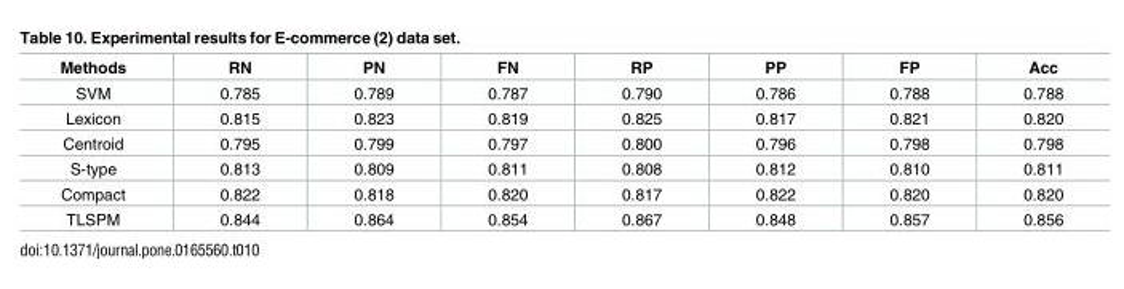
<table><thead><tr><td>Methods</td><td>RN</td><td>PN</td><td>FN</td><td>RP</td><td>PP</td><td>FP</td><td>Acc</td></tr></thead><tbody><tr><td>SVM</td><td>0.785</td><td>0.789</td><td>0.787</td><td>0.790</td><td>0.786</td><td>0.788</td><td>0.788</td></tr><tr><td>Lexicon</td><td>0.815</td><td>0.823</td><td>0.819</td><td>0.825</td><td>0.817</td><td>0.821</td><td>0.820</td></tr><tr><td>Centroid</td><td>0.795</td><td>0.799</td><td>0.797</td><td>0.800</td><td>0.796</td><td>0.798</td><td>0.798</td></tr><tr><td>S-type</td><td>0.813</td><td>0.809</td><td>0.811</td><td>0.808</td><td>0.812</td><td>0.810</td><td>0.811</td></tr><tr><td>Compact</td><td>0.822</td><td>0.818</td><td>0.820</td><td>0.817</td><td>0.822</td><td>0.820</td><td>0.820</td></tr><tr><td>TLSPM</td><td>0.844</td><td>0.864</td><td>0.854</td><td>0.867</td><td>0.848</td><td>0.857</td><td>0.856</td></tr></tbody></table>